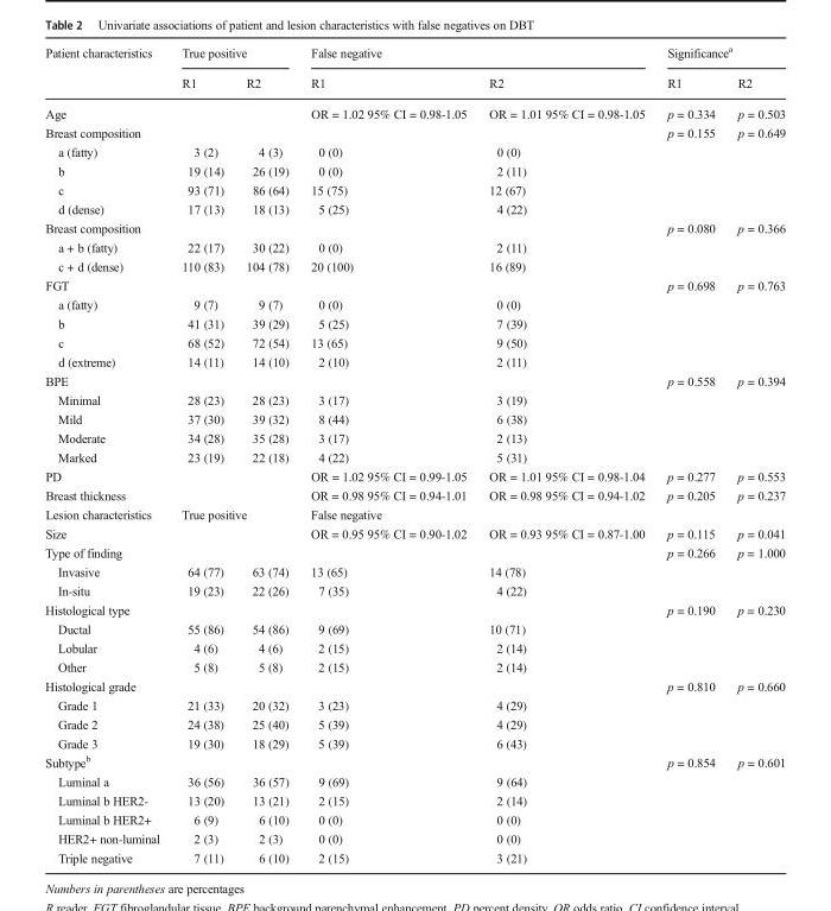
<table><thead><tr><td rowspan="2">Patient characteristics</td><td colspan="2">True positive</td><td colspan="2">False negative</td><td colspan="2">Significance<sup>a</sup></td></tr><tr><td>R1</td><td>R2</td><td>R1</td><td>R2</td><td>R1</td><td>R2</td></tr></thead><tbody><tr><td>Age</td><td></td><td></td><td>OR = 1.02 95% CI = 0.98-1.05</td><td>OR = 1.01 95% CI = 0.98-1.05</td><td>p = 0.334</td><td>p = 0.503</td></tr><tr><td>Breast composition</td><td></td><td></td><td></td><td></td><td>p = 0.155</td><td>p = 0.649</td></tr><tr><td>a (fatty)</td><td>3 (2)</td><td>4 (3)</td><td>0 (0)</td><td>0 (0)</td><td></td><td></td></tr><tr><td>b</td><td>19 (14)</td><td>26 (19)</td><td>0 (0)</td><td>2 (11)</td><td></td><td></td></tr><tr><td>c</td><td>93 (71)</td><td>86 (64)</td><td>15 (75)</td><td>12 (67)</td><td></td><td></td></tr><tr><td>d (dense)</td><td>17 (13)</td><td>18 (13)</td><td>5 (25)</td><td>4 (22)</td><td></td><td></td></tr><tr><td>Breast composition</td><td></td><td></td><td></td><td></td><td>p = 0.080</td><td>p = 0.366</td></tr><tr><td>a + b (fatty)</td><td>22 (17)</td><td>30 (22)</td><td>0 (0)</td><td>2 (11)</td><td></td><td></td></tr><tr><td>c + d (dense)</td><td>110 (83)</td><td>104 (78)</td><td>20 (100)</td><td>16 (89)</td><td></td><td></td></tr><tr><td>FGT</td><td></td><td></td><td></td><td></td><td>p = 0.698</td><td>p = 0.763</td></tr><tr><td>a (fatty)</td><td>9 (7)</td><td>9 (7)</td><td>0 (0)</td><td>0 (0)</td><td></td><td></td></tr><tr><td>b</td><td>41 (31)</td><td>39 (29)</td><td>5 (25)</td><td>7 (39)</td><td></td><td></td></tr><tr><td>c</td><td>68 (52)</td><td>72 (54)</td><td>13 (65)</td><td>9 (50)</td><td></td><td></td></tr><tr><td>d (extreme)</td><td>14 (11)</td><td>14 (10)</td><td>2 (10)</td><td>2 (11)</td><td></td><td></td></tr><tr><td>BPE</td><td></td><td></td><td></td><td></td><td>p = 0.558</td><td>p = 0.394</td></tr><tr><td>Minimal</td><td>28 (23)</td><td>28 (23)</td><td>3 (17)</td><td>3 (19)</td><td></td><td></td></tr><tr><td>Mild</td><td>37 (30)</td><td>39 (32)</td><td>8 (44)</td><td>6 (38)</td><td></td><td></td></tr><tr><td>Moderate</td><td>34 (28)</td><td>35 (28)</td><td>3 (17)</td><td>2 (13)</td><td></td><td></td></tr><tr><td>Marked</td><td>23 (19)</td><td>22 (18)</td><td>4 (22)</td><td>5 (31)</td><td></td><td></td></tr><tr><td>PD</td><td></td><td></td><td>OR = 1.02 95% CI = 0.99-1.05</td><td>OR = 1.01 95% CI = 0.98-1.04</td><td>p = 0.277</td><td>p = 0.553</td></tr><tr><td>Breast thickness</td><td></td><td></td><td>OR = 0.98 95% CI = 0.94-1.01</td><td>OR = 0.98 95% CI = 0.94-1.02</td><td>p = 0.205</td><td>p = 0.237</td></tr><tr><td>Lesion characteristics</td><td colspan="2">True positive</td><td colspan="2">False negative</td><td></td><td></td></tr><tr><td>Size</td><td></td><td></td><td>OR = 0.95 95% CI = 0.90-1.02</td><td>OR = 0.93 95% CI = 0.87-1.00</td><td>p = 0.115</td><td>p = 0.041</td></tr><tr><td>Type of finding</td><td></td><td></td><td></td><td></td><td>p = 0.266</td><td>p = 1.000</td></tr><tr><td>Invasive</td><td>64 (77)</td><td>63 (74)</td><td>13 (65)</td><td>14 (78)</td><td></td><td></td></tr><tr><td>In-situ</td><td>19 (23)</td><td>22 (26)</td><td>7 (35)</td><td>4 (22)</td><td></td><td></td></tr><tr><td>Histological type</td><td></td><td></td><td></td><td></td><td>p = 0.190</td><td>p = 0.230</td></tr><tr><td>Ductal</td><td>55 (86)</td><td>54 (86)</td><td>9 (69)</td><td>10 (71)</td><td></td><td></td></tr><tr><td>Lobular</td><td>4 (6)</td><td>4 (6)</td><td>2 (15)</td><td>2 (14)</td><td></td><td></td></tr><tr><td>Other</td><td>5 (8)</td><td>5 (8)</td><td>2 (15)</td><td>2 (14)</td><td></td><td></td></tr><tr><td>Histological grade</td><td></td><td></td><td></td><td></td><td>p = 0.810</td><td>p = 0.660</td></tr><tr><td>Grade 1</td><td>21 (33)</td><td>20 (32)</td><td>3 (23)</td><td>4 (29)</td><td></td><td></td></tr><tr><td>Grade 2</td><td>24 (38)</td><td>25 (40)</td><td>5 (39)</td><td>4 (29)</td><td></td><td></td></tr><tr><td>Grade 3</td><td>19 (30)</td><td>18 (29)</td><td>5 (39)</td><td>6 (43)</td><td></td><td></td></tr><tr><td>Subtype<sup>b</sup></td><td></td><td></td><td></td><td></td><td>p = 0.854</td><td>p = 0.601</td></tr><tr><td>Luminal a</td><td>36 (56)</td><td>36 (57)</td><td>9 (69)</td><td>9 (64)</td><td></td><td></td></tr><tr><td>Luminal b HER2-</td><td>13 (20)</td><td>13 (21)</td><td>2 (15)</td><td>2 (14)</td><td></td><td></td></tr><tr><td>Luminal b HER2+</td><td>6 (9)</td><td>6 (10)</td><td>0 (0)</td><td>0 (0)</td><td></td><td></td></tr><tr><td>HER2+ non-luminal</td><td>2 (3)</td><td>2 (3)</td><td>0 (0)</td><td>0 (0)</td><td></td><td></td></tr><tr><td>Triple negative</td><td>7 (11)</td><td>6 (10)</td><td>2 (15)</td><td>3 (21)</td><td></td><td></td></tr></tbody></table>